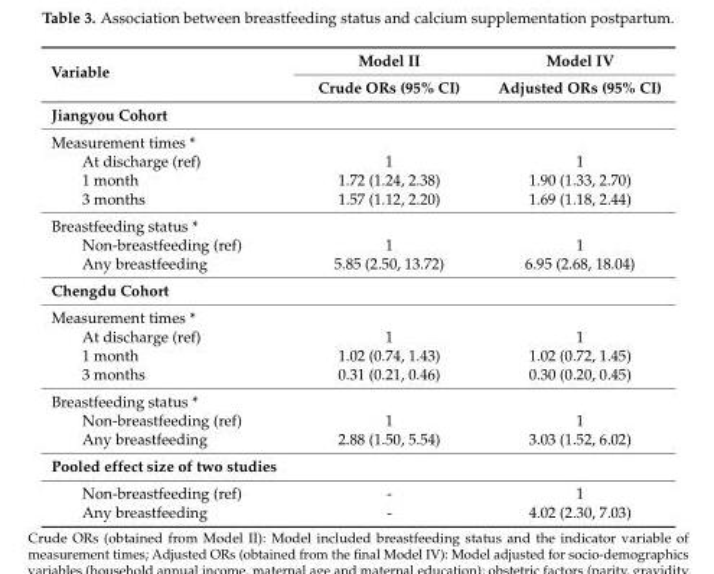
<table><thead><tr><td rowspan="2">Variable</td><td rowspan="2">Model II Crude ORs (95% CI)</td><td rowspan="2">Model IV Adjusted ORs (95% CI)</td></tr><tr></tr></thead><tbody><tr><td colspan="3">Jiangyou Cohort</td></tr><tr><td colspan="3">Measurement times *</td></tr><tr><td>At discharge (ref)</td><td>1</td><td>1</td></tr><tr><td>1 month</td><td>1.72 (1.24, 2.38)</td><td>1.90 (1.33, 2.70)</td></tr><tr><td>3 months</td><td>1.57 (1.12, 2.20)</td><td>1.69 (1.18, 2.44)</td></tr><tr><td colspan="3">Breastfeeding status *</td></tr><tr><td>Non-breastfeeding (ref)</td><td>1</td><td>1</td></tr><tr><td>Any breastfeeding</td><td>5.85 (2.50, 13.72)</td><td>6.95 (2.68, 18.04)</td></tr><tr><td colspan="3">Chengdu Cohort</td></tr><tr><td colspan="3">Measurement times *</td></tr><tr><td>At discharge (ref)</td><td>1</td><td>1</td></tr><tr><td>1 month</td><td>1.02 (0.74, 1.43)</td><td>1.02 (0.72, 1.45)</td></tr><tr><td>3 months</td><td>0.31 (0.21, 0.46)</td><td>0.30 (0.20, 0.45)</td></tr><tr><td colspan="3">Breastfeeding status *</td></tr><tr><td>Non-breastfeeding (ref)</td><td>1</td><td>1</td></tr><tr><td>Any breastfeeding</td><td>2.88 (1.50, 5.54)</td><td>3.03 (1.52, 6.02)</td></tr><tr><td colspan="3">Pooled effect size of two studies</td></tr><tr><td>Non-breastfeeding (ref)</td><td>-</td><td>1</td></tr><tr><td>Any breastfeeding</td><td>-</td><td>4.02 (2.30, 7.03)</td></tr></tbody></table>